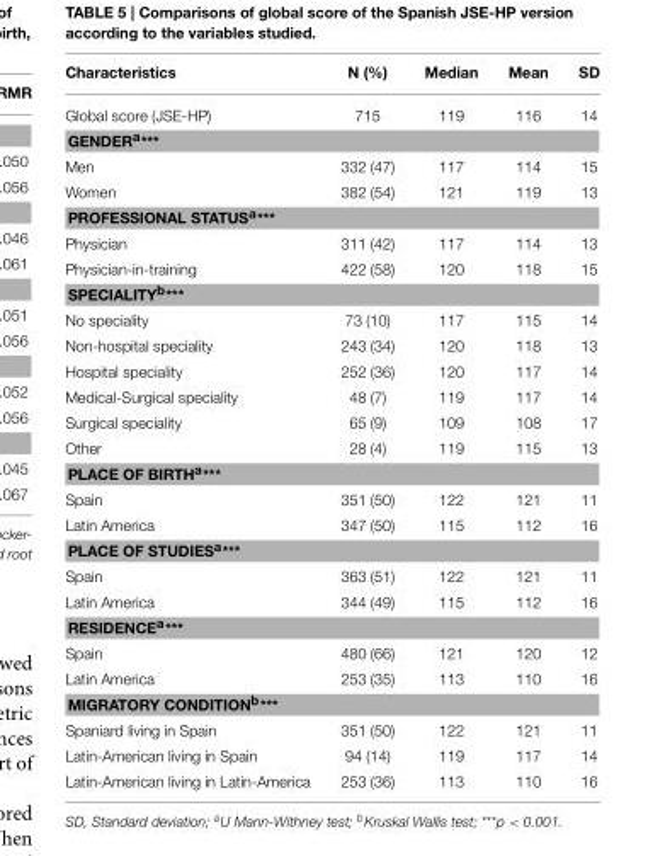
<table><thead><tr><td>Characteristics</td><td>N (%)</td><td>Median</td><td>Mean</td><td>SD</td></tr></thead><tbody><tr><td>Global score (JSE-HP)</td><td>715</td><td>119</td><td>116</td><td>14</td></tr><tr><td colspan="5">GENDER<sup>a***</sup></td></tr><tr><td>Men</td><td>332 (47)</td><td>117</td><td>114</td><td>15</td></tr><tr><td>Women</td><td>382 (54)</td><td>121</td><td>119</td><td>13</td></tr><tr><td colspan="5">PROFESSIONAL STATUS<sup>a***</sup></td></tr><tr><td>Physician</td><td>311 (42)</td><td>117</td><td>114</td><td>13</td></tr><tr><td>Physician-in-training</td><td>422 (58)</td><td>120</td><td>118</td><td>15</td></tr><tr><td colspan="5">SPECIALITY<sup>b***</sup></td></tr><tr><td>No speciality</td><td>73 (10)</td><td>117</td><td>115</td><td>14</td></tr><tr><td>Non-hospital speciality</td><td>243 (34)</td><td>120</td><td>118</td><td>13</td></tr><tr><td>Hospital speciality</td><td>252 (36)</td><td>120</td><td>117</td><td>14</td></tr><tr><td>Medical-Surgical speciality</td><td>48 (7)</td><td>119</td><td>117</td><td>14</td></tr><tr><td>Surgical speciality</td><td>65 (9)</td><td>109</td><td>108</td><td>17</td></tr><tr><td>Other</td><td>28 (4)</td><td>119</td><td>115</td><td>13</td></tr><tr><td colspan="5">PLACE OF BIRTH<sup>a***</sup></td></tr><tr><td>Spain</td><td>351 (50)</td><td>122</td><td>121</td><td>11</td></tr><tr><td>Latin America</td><td>347 (50)</td><td>115</td><td>112</td><td>16</td></tr><tr><td colspan="5">PLACE OF STUDIES<sup>a***</sup></td></tr><tr><td>Spain</td><td>363 (51)</td><td>122</td><td>121</td><td>11</td></tr><tr><td>Latin America</td><td>344 (49)</td><td>115</td><td>112</td><td>16</td></tr><tr><td colspan="5">RESIDENCE<sup>a***</sup></td></tr><tr><td>Spain</td><td>480 (66)</td><td>121</td><td>120</td><td>12</td></tr><tr><td>Latin America</td><td>253 (35)</td><td>113</td><td>110</td><td>16</td></tr><tr><td colspan="5">MIGRATORY CONDITION<sup>b***</sup></td></tr><tr><td>Spaniard living in Spain</td><td>351 (50)</td><td>122</td><td>121</td><td>11</td></tr><tr><td>Latin-American living in Spain</td><td>94 (14)</td><td>119</td><td>117</td><td>14</td></tr><tr><td>Latin-American living in Latin-America</td><td>253 (36)</td><td>113</td><td>110</td><td>16</td></tr></tbody></table>